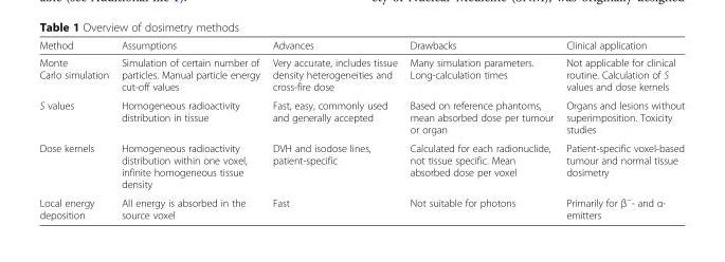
<table><thead><tr><td>Method</td><td>Assumptions</td><td>Advances</td><td>Drawbacks</td><td>Clinical application</td></tr></thead><tbody><tr><td>Monte Carlo simulation</td><td>Simulation of certain number of particles. Manual particle energy cut-off values</td><td>Very accurate, includes tissue density heterogeneities and cross-fire dose</td><td>Many simulation parameters. Long-calculation times</td><td>Not applicable for clinical routine. Calculation of S values and dose kernels</td></tr><tr><td>S values</td><td>Homogeneous radioactivity distribution in tissue</td><td>Fast, easy, commonly used and generally accepted</td><td>Based on reference phantoms, mean absorbed dose per tumour or organ</td><td>Organs and lesions without superimposition. Toxicity studies</td></tr><tr><td>Dose kernels</td><td>Homogeneous radioactivity distribution within one voxel, infinite homogeneous tissue density</td><td>DVH and isodose lines, patient-specific</td><td>Calculated for each radionuclide, not tissue specific. Mean absorbed dose per voxel</td><td>Patient-specific voxel-based tumour and normal tissue dosimetry</td></tr><tr><td>Local energy deposition</td><td>All energy is absorbed in the source voxel</td><td>Fast</td><td>Not suitable for photons</td><td>Primarily for β<sup>−</sup>- and α- emitters</td></tr></tbody></table>